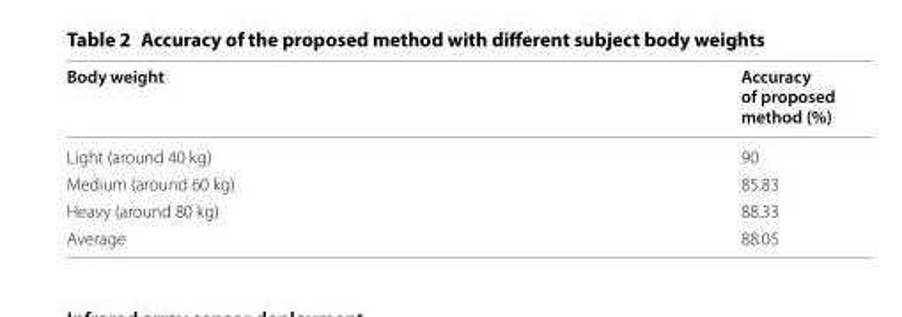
<table><thead><tr><td>Body weight</td><td>Accuracy of proposed method (%)</td></tr></thead><tbody><tr><td>Light (around 40 kg)</td><td>90</td></tr><tr><td>Medium (around 60 kg)</td><td>85.83</td></tr><tr><td>Heavy (around 80 kg)</td><td>88.33</td></tr><tr><td>Average</td><td>88.05</td></tr></tbody></table>